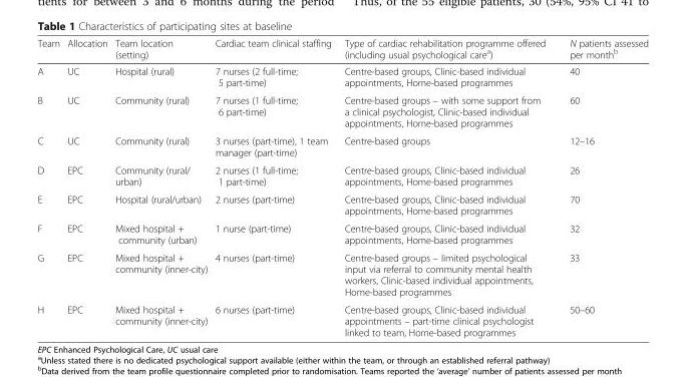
<table><thead><tr><td>Team</td><td>Allocation</td><td>Team location (setting)</td><td>Cardiac team clinical staffing</td><td>Type of cardiac rehabilitation programme offered (including usual psychological care<sup>a</sup>)</td><td>N patients assessed per month<sup>b</sup></td></tr></thead><tbody><tr><td>A</td><td>UC</td><td>Hospital (rural)</td><td>7 nurses (2 full-time; 5 part-time)</td><td>Centre-based groups, Clinic-based individual appointments, Home-based programmes</td><td>40</td></tr><tr><td>B</td><td>UC</td><td>Community (rural)</td><td>7 nurses (1 full-time; 6 part-time)</td><td>Centre-based groups – with some support from a clinical psychologist, Clinic-based individual appointments, Home-based programmes</td><td>60</td></tr><tr><td>C</td><td>UC</td><td>Community (rural)</td><td>3 nurses (part-time), 1 team manager (part-time)</td><td>Centre-based groups</td><td>12–16</td></tr><tr><td>D</td><td>EPC</td><td>Community (rural/ urban)</td><td>2 nurses (1 full-time; 1 part-time)</td><td>Centre-based groups, Clinic-based individual appointments, Home-based programmes</td><td>26</td></tr><tr><td>E</td><td>EPC</td><td>Hospital (rural/urban)</td><td>2 nurses (part-time)</td><td>Centre-based groups, Clinic-based individual appointments, Home-based programmes</td><td>70</td></tr><tr><td>F</td><td>EPC</td><td>Mixed hospital + community (urban)</td><td>1 nurse (part-time)</td><td>Centre-based groups, Clinic-based individual appointments, Home-based programmes</td><td>32</td></tr><tr><td>G</td><td>EPC</td><td>Mixed hospital + community (inner-city)</td><td>4 nurses (part-time)</td><td>Centre-based groups – limited psychological input via referral to community mental health workers, Clinic-based individual appointments, Home-based programmes</td><td>33</td></tr><tr><td>H</td><td>EPC</td><td>Mixed hospital + community (inner-city)</td><td>6 nurses (part-time)</td><td>Centre-based groups, Clinic-based individual appointments – part-time clinical psychologist linked to team, Home-based programmes</td><td>50–60</td></tr></tbody></table>